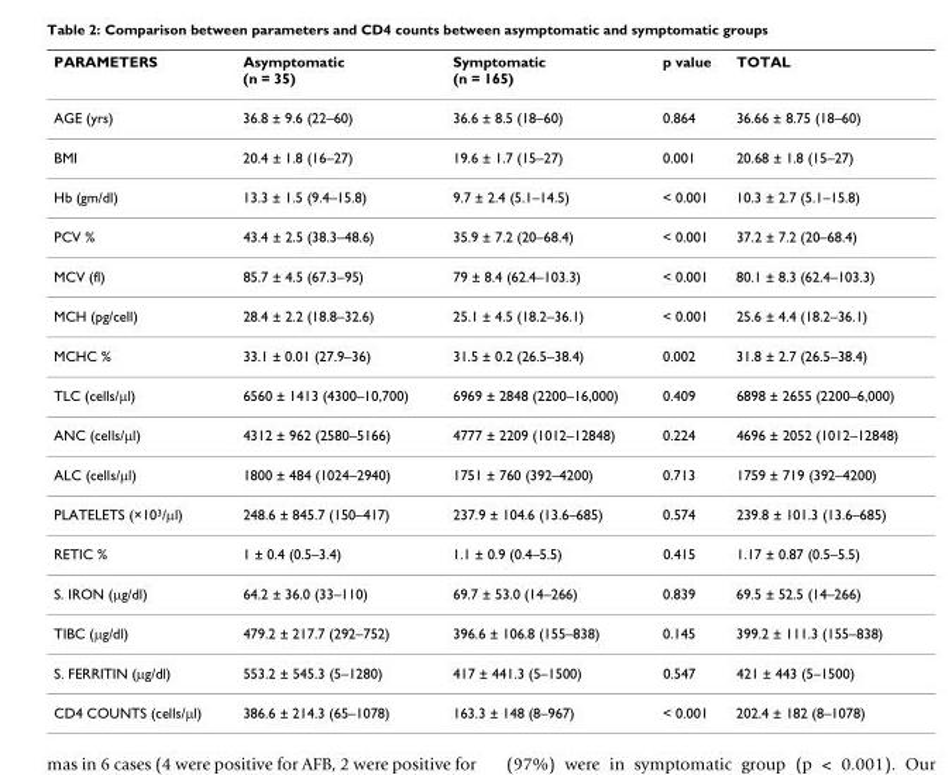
<table><thead><tr><td>PARAMETERS</td><td>Asymptomatic (n = 35)</td><td>Symptomatic (n = 165)</td><td>p value</td><td>TOTAL</td></tr></thead><tbody><tr><td>AGE (yrs)</td><td>36.8 ± 9.6 (22–60)</td><td>36.6 ± 8.5 (18–60)</td><td>0.864</td><td>36.66 ± 8.75 (18–60)</td></tr><tr><td>BMI</td><td>20.4 ± 1.8 (16–27)</td><td>19.6 ± 1.7 (15–27)</td><td>0.001</td><td>20.68 ± 1.8 (15–27)</td></tr><tr><td>Hb (gm/dl)</td><td>13.3 ± 1.5 (9.4–15.8)</td><td>9.7 ± 2.4 (5.1–14.5)</td><td>&lt; 0.001</td><td>10.3 ± 2.7 (5.1–15.8)</td></tr><tr><td>PCV %</td><td>43.4 ± 2.5 (38.3–48.6)</td><td>35.9 ± 7.2 (20–68.4)</td><td>&lt; 0.001</td><td>37.2 ± 7.2 (20–68.4)</td></tr><tr><td>MCV (fl)</td><td>85.7 ± 4.5 (67.3–95)</td><td>79 ± 8.4 (62.4–103.3)</td><td>&lt; 0.001</td><td>80.1 ± 8.3 (62.4–103.3)</td></tr><tr><td>MCH (pg/cell)</td><td>28.4 ± 2.2 (18.8–32.6)</td><td>25.1 ± 4.5 (18.2–36.1)</td><td>&lt; 0.001</td><td>25.6 ± 4.4 (18.2–36.1)</td></tr><tr><td>MCHC %</td><td>33.1 ± 0.01 (27.9–36)</td><td>31.5 ± 0.2 (26.5–38.4)</td><td>0.002</td><td>31.8 ± 2.7 (26.5–38.4)</td></tr><tr><td>TLC (cells/μl)</td><td>6560 ± 1413 (4300–10,700)</td><td>6969 ± 2848 (2200–16,000)</td><td>0.409</td><td>6898 ± 2655 (2200–6,000)</td></tr><tr><td>ANC (cells/μl)</td><td>4312 ± 962 (2580–5166)</td><td>4777 ± 2209 (1012–12848)</td><td>0.224</td><td>4696 ± 2052 (1012–12848)</td></tr><tr><td>ALC (cells/μl)</td><td>1800 ± 484 (1024–2940)</td><td>1751 ± 760 (392–4200)</td><td>0.713</td><td>1759 ± 719 (392–4200)</td></tr><tr><td>PLATELETS (×10<sup>3</sup>/μl)</td><td>248.6 ± 845.7 (150–417)</td><td>237.9 ± 104.6 (13.6–685)</td><td>0.574</td><td>239.8 ± 101.3 (13.6–685)</td></tr><tr><td>RETIC %</td><td>1 ± 0.4 (0.5–3.4)</td><td>1.1 ± 0.9 (0.4–5.5)</td><td>0.415</td><td>1.17 ± 0.87 (0.5–5.5)</td></tr><tr><td>S. IRON (μg/dl)</td><td>64.2 ± 36.0 (33–110)</td><td>69.7 ± 53.0 (14–266)</td><td>0.839</td><td>69.5 ± 52.5 (14–266)</td></tr><tr><td>TIBC (μg/dl)</td><td>479.2 ± 217.7 (292–752)</td><td>396.6 ± 106.8 (155–838)</td><td>0.145</td><td>399.2 ± 111.3 (155–838)</td></tr><tr><td>S. FERRITIN (μg/dl)</td><td>553.2 ± 545.3 (5–1280)</td><td>417 ± 441.3 (5–1500)</td><td>0.547</td><td>421 ± 443 (5–1500)</td></tr><tr><td>CD4 COUNTS (cells/μl)</td><td>386.6 ± 214.3 (65–1078)</td><td>163.3 ± 148 (8–967)</td><td>&lt; 0.001</td><td>202.4 ± 182 (8–1078)</td></tr></tbody></table>